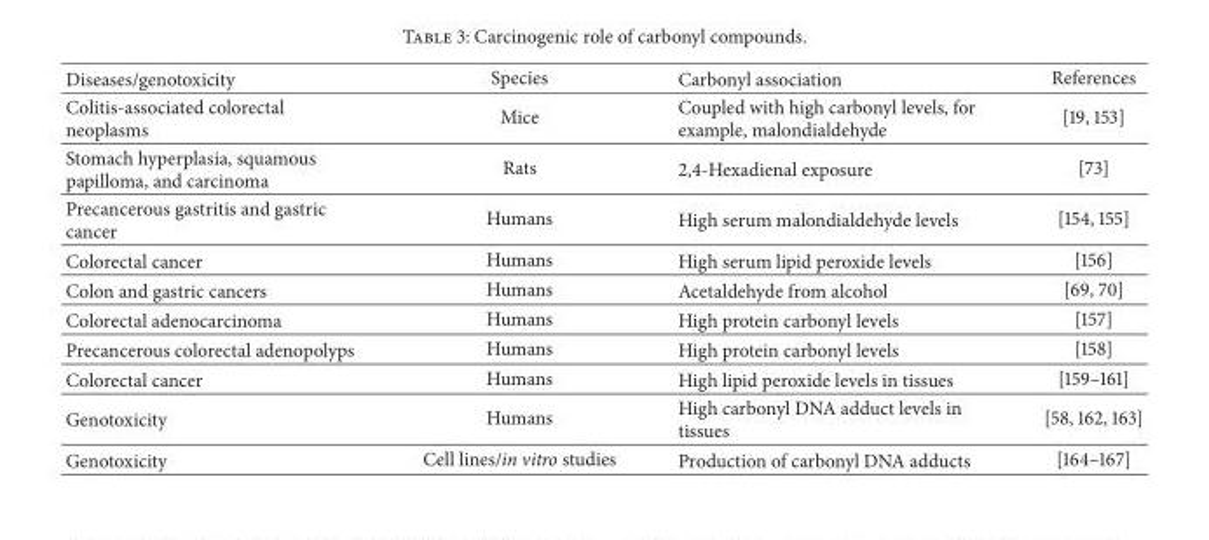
<table><thead><tr><td>Diseases/genotoxicity</td><td>Species</td><td>Carbonyl association</td><td>References</td></tr></thead><tbody><tr><td>Colitis-associated colorectal neoplasms</td><td>Mice</td><td>Coupled with high carbonyl levels, for example, malondialdehyde</td><td>[19, 153]</td></tr><tr><td>Stomach hyperplasia, squamous papilloma, and carcinoma</td><td>Rats</td><td>2,4-Hexadienal exposure</td><td>[73]</td></tr><tr><td>Precancerous gastritis and gastric cancer</td><td>Humans</td><td>High serum malondialdehyde levels</td><td>[154, 155]</td></tr><tr><td>Colorectal cancer</td><td>Humans</td><td>High serum lipid peroxide levels</td><td>[156]</td></tr><tr><td>Colon and gastric cancers</td><td>Humans</td><td>Acetaldehyde from alcohol</td><td>[69, 70]</td></tr><tr><td>Colorectal adenocarcinoma</td><td>Humans</td><td>High protein carbonyl levels</td><td>[157]</td></tr><tr><td>Precancerous colorectal adenopolyps</td><td>Humans</td><td>High protein carbonyl levels</td><td>[158]</td></tr><tr><td>Colorectal cancer</td><td>Humans</td><td>High lipid peroxide levels in tissues</td><td>[159–161]</td></tr><tr><td>Genotoxicity</td><td>Humans</td><td>High carbonyl DNA adduct levels in tissues</td><td>[58, 162, 163]</td></tr><tr><td>Genotoxicity</td><td>Cell lines/in vitro studies</td><td>Production of carbonyl DNA adducts</td><td>[164–167]</td></tr></tbody></table>